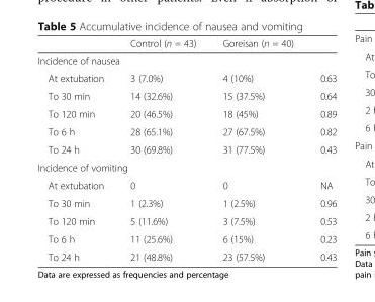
<table><thead><tr><td></td><td>Control (n = 43)</td><td>Goreisan (n = 40)</td><td></td></tr></thead><tbody><tr><td colspan="4">Incidence of nausea</td></tr><tr><td>At extubation</td><td>3 (7.0%)</td><td>4 (10%)</td><td>0.63</td></tr><tr><td>To 30 min</td><td>14 (32.6%)</td><td>15 (37.5%)</td><td>0.64</td></tr><tr><td>To 120 min</td><td>20 (46.5%)</td><td>18 (45%)</td><td>0.89</td></tr><tr><td>To 6 h</td><td>28 (65.1%)</td><td>27 (67.5%)</td><td>0.82</td></tr><tr><td>To 24 h</td><td>30 (69.8%)</td><td>31 (77.5%)</td><td>0.43</td></tr><tr><td colspan="4">Incidence of vomiting</td></tr><tr><td>At extubation</td><td>0</td><td>0</td><td>NA</td></tr><tr><td>To 30 min</td><td>1 (2.3%)</td><td>1 (2.5%)</td><td>0.96</td></tr><tr><td>To 120 min</td><td>5 (11.6%)</td><td>3 (7.5%)</td><td>0.53</td></tr><tr><td>To 6 h</td><td>11 (25.6%)</td><td>6 (15%)</td><td>0.23</td></tr><tr><td>To 24 h</td><td>21 (48.8%)</td><td>23 (57.5%)</td><td>0.43</td></tr></tbody></table>